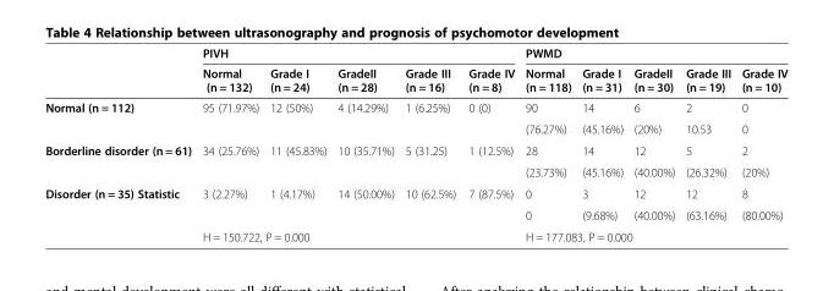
<table><thead><tr><td rowspan="2"></td><td colspan="5">PIVH</td><td colspan="5">PWMD</td></tr><tr><td>Normal (n = 132)</td><td>Grade I (n = 24)</td><td>GradeII (n = 28)</td><td>Grade III (n = 16)</td><td>Grade IV (n = 8)</td><td>Normal (n = 118)</td><td>Grade I (n = 31)</td><td>GradeII (n = 30)</td><td>Grade III (n = 19)</td><td>Grade IV (n = 10)</td></tr></thead><tbody><tr><td rowspan="2">Normal (n = 112)</td><td rowspan="2">95 (71.97%)</td><td rowspan="2">12 (50%)</td><td rowspan="2">4 (14.29%)</td><td rowspan="2">1 (6.25%)</td><td rowspan="2">0 (0)</td><td>90</td><td>14</td><td>6</td><td>2</td><td>0</td></tr><tr><td>(76.27%)</td><td>(45.16%)</td><td>(20%)</td><td>10.53</td><td>0</td></tr><tr><td rowspan="2">Borderline disorder (n = 61)</td><td rowspan="2">34 (25.76%)</td><td rowspan="2">11 (45.83%)</td><td rowspan="2">10 (35.71%)</td><td rowspan="2">5 (31.25)</td><td rowspan="2">1 (12.5%)</td><td>28</td><td>14</td><td>12</td><td>5</td><td>2</td></tr><tr><td>(23.73%)</td><td>(45.16%)</td><td>(40.00%)</td><td>(26.32%)</td><td>(20%)</td></tr><tr><td rowspan="3">Disorder (n = 35) Statistic</td><td rowspan="2">3 (2.27%)</td><td rowspan="2">1 (4.17%)</td><td rowspan="2">14 (50.00%)</td><td rowspan="2">10 (62.5%)</td><td rowspan="2">7 (87.5%)</td><td>0</td><td>3</td><td>12</td><td>12</td><td>8</td></tr><tr><td>0</td><td>(9.68%)</td><td>(40.00%)</td><td>(63.16%)</td><td>(80.00%)</td></tr><tr><td colspan="5">H = 150.722, P = 0.000</td><td colspan="5">H = 177.083, P = 0.000</td></tr></tbody></table>